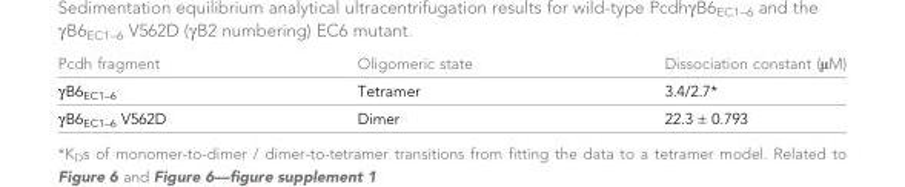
<table><thead><tr><td>Pcdh fragment</td><td>Oligomeric state</td><td>Dissociation constant (μM)</td></tr></thead><tbody><tr><td>γB6<sub>EC1–6</sub></td><td>Tetramer</td><td>3.4/2.7*</td></tr><tr><td>γB6<sub>EC1–6</sub> V562D</td><td>Dimer</td><td>22.3 ± 0.793</td></tr></tbody></table>